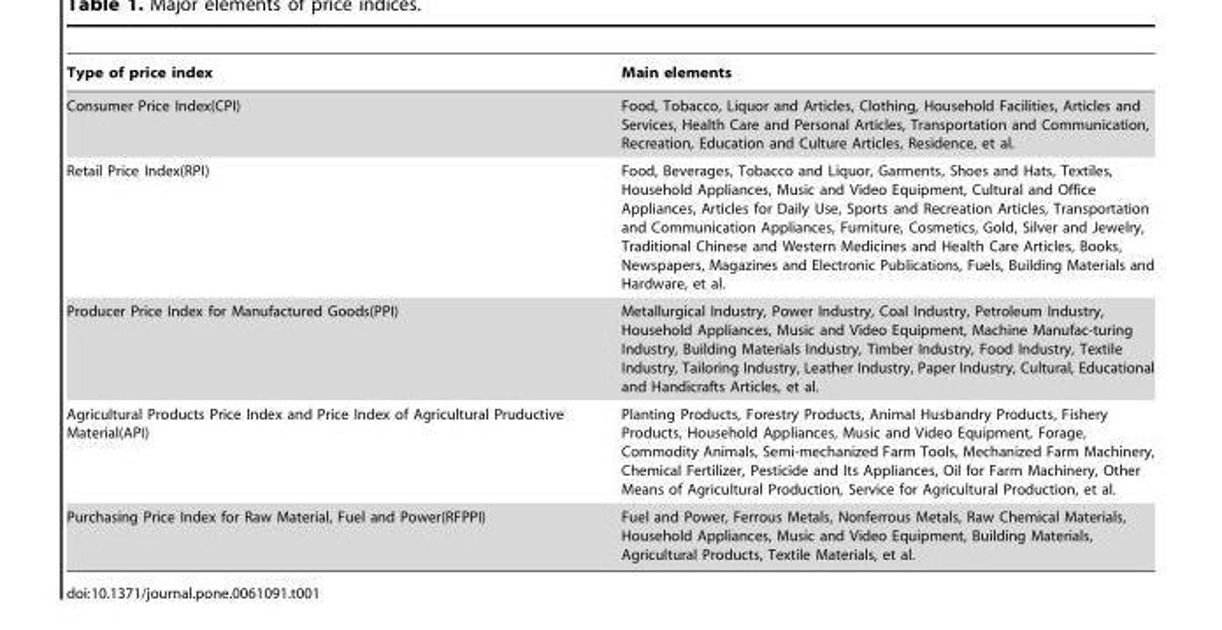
<table><thead><tr><td>Type of price index</td><td>Main elements</td></tr></thead><tbody><tr><td>Consumer Price Index(CPI)</td><td>Food, Tobacco, Liquor and Articles, Clothing, Household Facilities, Articles and Services, Health Care and Personal Articles, Transportation and Communication, Recreation, Education and Culture Articles, Residence, et al.</td></tr><tr><td>Retail Price Index(RPI)</td><td>Food, Beverages, Tobacco and Liquor, Garments, Shoes and Hats, Textiles, Household Appliances, Music and Video Equipment, Cultural and Office Appliances, Articles for Daily Use, Sports and Recreation Articles, Transportation and Communication Appliances, Furniture, Cosmetics, Gold, Silver and Jewelry, Traditional Chinese and Western Medicines and Health Care Articles, Books, Newspapers, Magazines and Electronic Publications, Fuels, Building Materials and Hardware, et al.</td></tr><tr><td>Producer Price Index for Manufactured Goods(PPI)</td><td>Metallurgical Industry, Power Industry, Coal Industry, Petroleum Industry, Household Appliances, Music and Video Equipment, Machine Manufac-turing Industry, Building Materials Industry, Timber Industry, Food Industry, Textile Industry, Tailoring Industry, Leather Industry, Paper Industry, Cultural, Educational and Handicrafts Articles, et al.</td></tr><tr><td>Agricultural Products Price Index and Price Index of Agricultural Pruductive Material(API)</td><td>Planting Products, Forestry Products, Animal Husbandry Products, Fishery Products, Household Appliances, Music and Video Equipment, Forage, Commodity Animals, Semi-mechanized Farm Tools, Mechanized Farm Machinery, Chemical Fertilizer, Pesticide and Its Appliances, Oil for Farm Machinery, Other Means of Agricultural Production, Service for Agricultural Production, et al.</td></tr><tr><td>Purchasing Price Index for Raw Material, Fuel and Power(RFPPI)</td><td>Fuel and Power, Ferrous Metals, Nonferrous Metals, Raw Chemical Materials, Household Appliances, Music and Video Equipment, Building Materials, Agricultural Products, Textile Materials, et al.</td></tr></tbody></table>